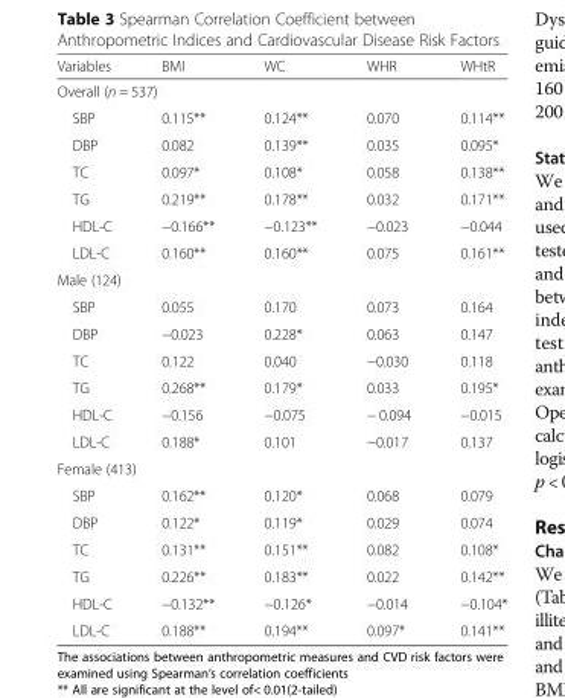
<table><thead><tr><td>Variables</td><td>BMI</td><td>WC</td><td>WHR</td><td>WHtR</td></tr></thead><tbody><tr><td colspan="5">Overall (n = 537)</td></tr><tr><td>SBP</td><td>0.115**</td><td>0.124**</td><td>0.070</td><td>0.114**</td></tr><tr><td>DBP</td><td>0.082</td><td>0.139**</td><td>0.035</td><td>0.095*</td></tr><tr><td>TC</td><td>0.097*</td><td>0.108*</td><td>0.058</td><td>0.138**</td></tr><tr><td>TG</td><td>0.219**</td><td>0.178**</td><td>0.032</td><td>0.171**</td></tr><tr><td>HDL-C</td><td>−0.166**</td><td>−0.123**</td><td>−0.023</td><td>−0.044</td></tr><tr><td>LDL-C</td><td>0.160**</td><td>0.160**</td><td>0.075</td><td>0.161**</td></tr><tr><td colspan="5">Male (124)</td></tr><tr><td>SBP</td><td>0.055</td><td>0.170</td><td>0.073</td><td>0.164</td></tr><tr><td>DBP</td><td>−0.023</td><td>0.228*</td><td>0.063</td><td>0.147</td></tr><tr><td>TC</td><td>0.122</td><td>0.040</td><td>−0.030</td><td>0.118</td></tr><tr><td>TG</td><td>0.268**</td><td>0.179*</td><td>0.033</td><td>0.195*</td></tr><tr><td>HDL-C</td><td>−0.156</td><td>−0.075</td><td>− 0.094</td><td>−0.015</td></tr><tr><td>LDL-C</td><td>0.188*</td><td>0.101</td><td>−0.017</td><td>0.137</td></tr><tr><td colspan="5">Female (413)</td></tr><tr><td>SBP</td><td>0.162**</td><td>0.120*</td><td>0.068</td><td>0.079</td></tr><tr><td>DBP</td><td>0.122*</td><td>0.119*</td><td>0.029</td><td>0.074</td></tr><tr><td>TC</td><td>0.131**</td><td>0.151**</td><td>0.082</td><td>0.108*</td></tr><tr><td>TG</td><td>0.226**</td><td>0.183**</td><td>0.022</td><td>0.142**</td></tr><tr><td>HDL-C</td><td>−0.132**</td><td>−0.126*</td><td>−0.014</td><td>−0.104*</td></tr><tr><td>LDL-C</td><td>0.188**</td><td>0.194**</td><td>0.097*</td><td>0.141**</td></tr></tbody></table>